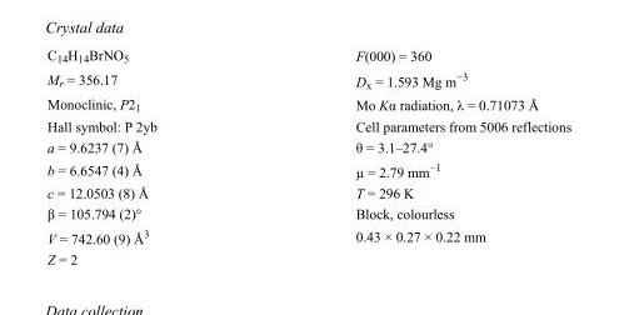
<table><tbody><tr><td>C<sub>14</sub>H<sub>14</sub>BrNO<sub>5</sub></td><td>F(000) = 360</td></tr><tr><td>M<sub>r</sub> = 356.17</td><td>D<sub>x</sub> = 1.593 Mg m<sup>−3</sup></td></tr><tr><td>Monoclinic, P2<sub>1</sub></td><td>Mo Kα radiation, λ = 0.71073 Å</td></tr><tr><td>Hall symbol: P 2yb</td><td>Cell parameters from 5006 reflections</td></tr><tr><td>a = 9.6237 (7) Å</td><td>θ = 3.1–27.4°</td></tr><tr><td>b = 6.6547 (4) Å</td><td>µ = 2.79 mm<sup>−1</sup></td></tr><tr><td>c = 12.0503 (8) Å</td><td>T = 296 K</td></tr><tr><td>β = 105.794 (2)°</td><td>Block, colourless</td></tr><tr><td>V = 742.60 (9) Å<sup>3</sup></td><td>0.43 × 0.27 × 0.22 mm</td></tr><tr><td>Z = 2</td><td></td></tr></tbody></table>